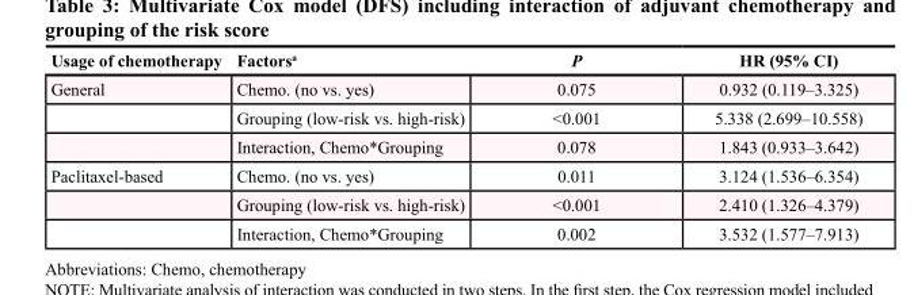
<table><thead><tr><td>Usage of chemotherapy</td><td>Factors<sup>a</sup></td><td>P</td><td>HR (95% CI)</td></tr></thead><tbody><tr><td rowspan="3">General</td><td>Chemo. (no vs. yes)</td><td>0.075</td><td>0.932 (0.119–3.325)</td></tr><tr><td>Grouping (low-risk vs. high-risk)</td><td>&lt;0.001</td><td>5.338 (2.699–10.558)</td></tr><tr><td>Interaction, Chemo*Grouping</td><td>0.078</td><td>1.843 (0.933–3.642)</td></tr><tr><td rowspan="3">Paclitaxel-based</td><td>Chemo. (no vs. yes)</td><td>0.011</td><td>3.124 (1.536–6.354)</td></tr><tr><td>Grouping (low-risk vs. high-risk)</td><td>&lt;0.001</td><td>2.410 (1.326–4.379)</td></tr><tr><td>Interaction, Chemo*Grouping</td><td>0.002</td><td>3.532 (1.577–7.913)</td></tr></tbody></table>